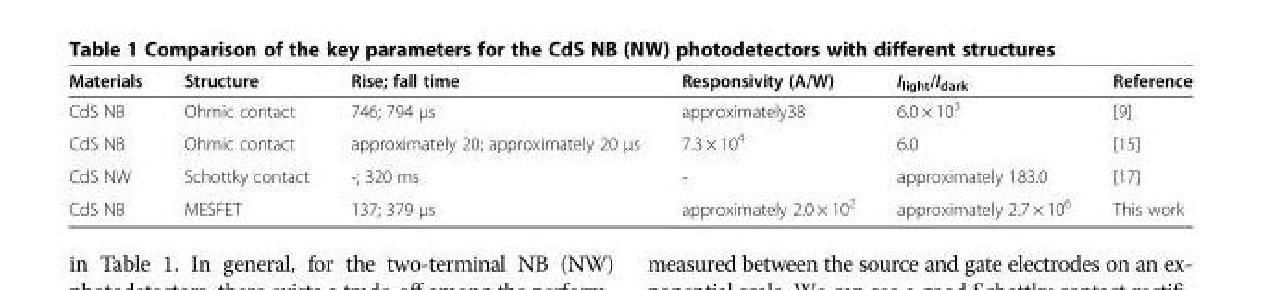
<table><thead><tr><td>Materials</td><td>Structure</td><td>Rise; fall time</td><td>Responsivity (A/W)</td><td>I<sub>light</sub>/I<sub>dark</sub></td><td>Reference</td></tr></thead><tbody><tr><td>CdS NB</td><td>Ohmic contact</td><td>746; 794 μs</td><td>approximately38</td><td>6.0 × 10<sup>3</sup></td><td>[9]</td></tr><tr><td>CdS NB</td><td>Ohmic contact</td><td>approximately 20; approximately 20 μs</td><td>7.3 × 10<sup>4</sup></td><td>6.0</td><td>[15]</td></tr><tr><td>CdS NW</td><td>Schottky contact</td><td>-; 320 ms</td><td>-</td><td>approximately 183.0</td><td>[17]</td></tr><tr><td>CdS NB</td><td>MESFET</td><td>137; 379 μs</td><td>approximately 2.0 × 10<sup>2</sup></td><td>approximately 2.7 × 10<sup>6</sup></td><td>This work</td></tr></tbody></table>